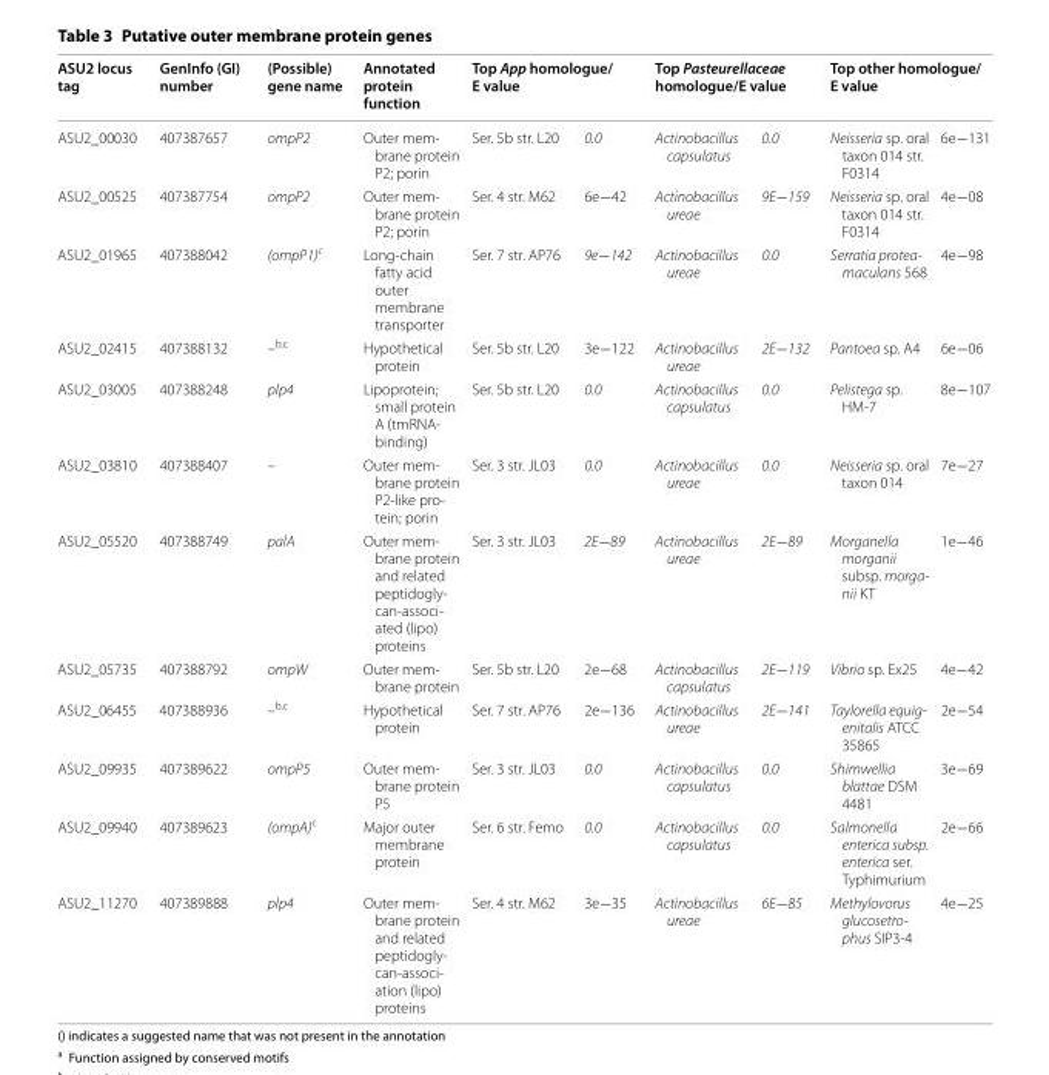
<table><thead><tr><td rowspan="2">ASU2 locus tag ASU2_00030</td><td rowspan="2">GenInfo (GI) number 407387657</td><td rowspan="2">(Possible) gene name ompP2</td><td rowspan="2">Annotated protein function Outer mem- brane protein P2; porin</td><td colspan="2">Top App homologue/ E value</td><td colspan="2">Top Pasteurellaceae homologue/E value</td><td colspan="2">Top other homologue/ E value</td></tr><tr><td>Ser. 5b str. L20</td><td>0.0</td><td>Actinobacillus capsulatus</td><td>0.0</td><td>Neisseria sp. oral taxon 014 str. F0314</td><td>6e−131</td></tr></thead><tbody><tr><td>ASU2_00525</td><td>407387754</td><td>ompP2</td><td>Outer mem- brane protein P2; porin</td><td>Ser. 4 str. M62</td><td>6e−42</td><td>Actinobacillus ureae</td><td>9E−159</td><td>Neisseria sp. oral taxon 014 str. F0314</td><td>4e−08</td></tr><tr><td>ASU2_01965</td><td>407388042</td><td>(ompP1)<sup>c</sup></td><td>Long-chain fatty acid outer membrane transporter</td><td>Ser. 7 str. AP76</td><td>9e−142</td><td>Actinobacillus ureae</td><td>0.0</td><td>Serratia protea- maculans 568</td><td>4e−98</td></tr><tr><td>ASU2_02415</td><td>407388132</td><td>–<sup>b,c</sup></td><td>Hypothetical protein</td><td>Ser. 5b str. L20</td><td>3e−122</td><td>Actinobacillus ureae</td><td>2E−132</td><td>Pantoea sp. A4</td><td>6e−06</td></tr><tr><td>ASU2_03005</td><td>407388248</td><td>plp4</td><td>Lipoprotein; small protein A (tmRNA- binding)</td><td>Ser. 5b str. L20</td><td>0.0</td><td>Actinobacillus capsulatus</td><td>0.0</td><td>Pelistega sp. HM-7</td><td>8e−107</td></tr><tr><td>ASU2_03810</td><td>407388407</td><td>–</td><td>Outer mem- brane protein P2-like pro- tein; porin</td><td>Ser. 3 str. JL03</td><td>0.0</td><td>Actinobacillus ureae</td><td>0.0</td><td>Neisseria sp. oral taxon 014</td><td>7e−27</td></tr><tr><td>ASU2_05520</td><td>407388749</td><td>palA</td><td>Outer mem- brane protein and related peptidogly- can-associ- ated (lipo) proteins</td><td>Ser. 3 str. JL03</td><td>2E−89</td><td>Actinobacillus ureae</td><td>2E−89</td><td>Morganella morganii subsp. morga- nii KT</td><td>1e−46</td></tr><tr><td>ASU2_05735</td><td>407388792</td><td>ompW</td><td>Outer mem- brane protein</td><td>Ser. 5b str. L20</td><td>2e−68</td><td>Actinobacillus capsulatus</td><td>2E−119</td><td>Vibrio sp. Ex25</td><td>4e−42</td></tr><tr><td>ASU2_06455</td><td>407388936</td><td>–<sup>b,c</sup></td><td>Hypothetical protein</td><td>Ser. 7 str. AP76</td><td>2e−136</td><td>Actinobacillus ureae</td><td>2E−141</td><td>Taylorella equig- enitalis ATCC 35865</td><td>2e−54</td></tr><tr><td>ASU2_09935</td><td>407389622</td><td>ompP5</td><td>Outer mem- brane protein P5</td><td>Ser. 3 str. JL03</td><td>0.0</td><td>Actinobacillus capsulatus</td><td>0.0</td><td>Shimwellia blattae DSM 4481</td><td>3e−69</td></tr><tr><td>ASU2_09940</td><td>407389623</td><td>(ompA)<sup>c</sup></td><td>Major outer membrane protein</td><td>Ser. 6 str. Femo</td><td>0.0</td><td>Actinobacillus capsulatus</td><td>0.0</td><td>Salmonella enterica subsp. enterica ser. Typhimurium</td><td>2e−66</td></tr><tr><td>ASU2_11270</td><td>407389888</td><td>plp4</td><td>Outer mem- brane protein and related peptidogly- can-associ- ation (lipo) proteins</td><td>Ser. 4 str. M62</td><td>3e−35</td><td>Actinobacillus ureae</td><td>6E−85</td><td>Methylovorus glucosetro- phus SIP3-4</td><td>4e−25</td></tr></tbody></table>